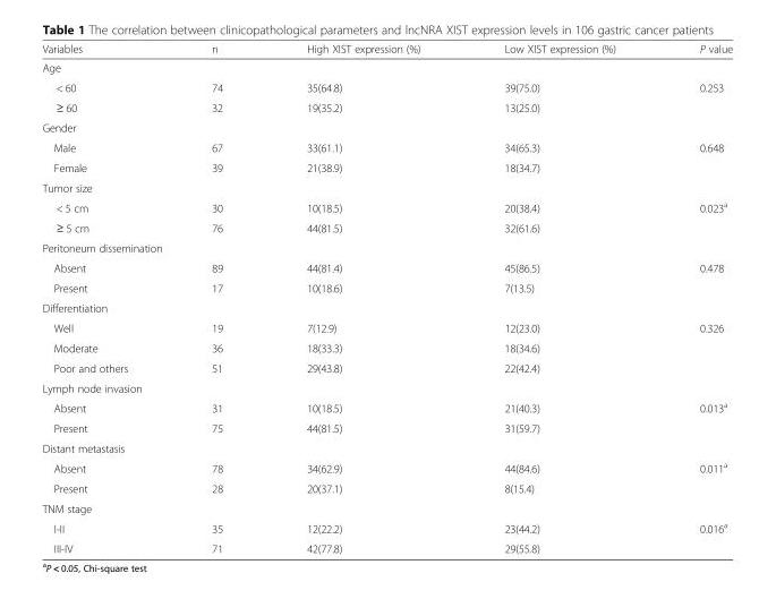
<table><thead><tr><td>Variables</td><td>n</td><td>High XIST expression (%)</td><td>Low XIST expression (%)</td><td>P value</td></tr></thead><tbody><tr><td colspan="5">Age</td></tr><tr><td>&lt; 60</td><td>74</td><td>35(64.8)</td><td>39(75.0)</td><td rowspan="2">0.253</td></tr><tr><td>≥ 60</td><td>32</td><td>19(35.2)</td><td>13(25.0)</td></tr><tr><td colspan="5">Gender</td></tr><tr><td>Male</td><td>67</td><td>33(61.1)</td><td>34(65.3)</td><td rowspan="2">0.648</td></tr><tr><td>Female</td><td>39</td><td>21(38.9)</td><td>18(34.7)</td></tr><tr><td colspan="5">Tumor size</td></tr><tr><td>&lt; 5 cm</td><td>30</td><td>10(18.5)</td><td>20(38.4)</td><td rowspan="2">0.023<sup>a</sup></td></tr><tr><td>≥ 5 cm</td><td>76</td><td>44(81.5)</td><td>32(61.6)</td></tr><tr><td colspan="5">Peritoneum dissemination</td></tr><tr><td>Absent</td><td>89</td><td>44(81.4)</td><td>45(86.5)</td><td rowspan="2">0.478</td></tr><tr><td>Present</td><td>17</td><td>10(18.6)</td><td>7(13.5)</td></tr><tr><td colspan="5">Differentiation</td></tr><tr><td>Well</td><td>19</td><td>7(12.9)</td><td>12(23.0)</td><td rowspan="3">0.326</td></tr><tr><td>Moderate</td><td>36</td><td>18(33.3)</td><td>18(34.6)</td></tr><tr><td>Poor and others</td><td>51</td><td>29(43.8)</td><td>22(42.4)</td></tr><tr><td colspan="5">Lymph node invasion</td></tr><tr><td>Absent</td><td>31</td><td>10(18.5)</td><td>21(40.3)</td><td rowspan="2">0.013<sup>a</sup></td></tr><tr><td>Present</td><td>75</td><td>44(81.5)</td><td>31(59.7)</td></tr><tr><td colspan="5">Distant metastasis</td></tr><tr><td>Absent</td><td>78</td><td>34(62.9)</td><td>44(84.6)</td><td rowspan="2">0.011<sup>a</sup></td></tr><tr><td>Present</td><td>28</td><td>20(37.1)</td><td>8(15.4)</td></tr><tr><td colspan="5">TNM stage</td></tr><tr><td>I-II</td><td>35</td><td>12(22.2)</td><td>23(44.2)</td><td rowspan="2">0.016<sup>a</sup></td></tr><tr><td>III-IV</td><td>71</td><td>42(77.8)</td><td>29(55.8)</td></tr></tbody></table>